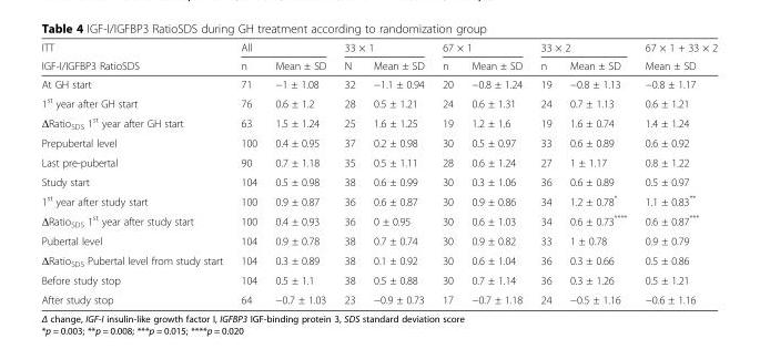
<table><thead><tr><td rowspan="2">ITT IGF-I/IGFBP3 RatioSDS</td><td colspan="2">All</td><td colspan="2">33 × 1</td><td colspan="2">67 × 1</td><td colspan="2">33 × 2</td><td rowspan="2">67 × 1 + 33 × 2 Mean ± SD</td></tr><tr><td>n</td><td>Mean ± SD</td><td>N</td><td>Mean ± SD</td><td>n</td><td>Mean ± SD</td><td>n</td><td>Mean ± SD</td></tr></thead><tbody><tr><td>At GH start</td><td>71</td><td>−1 ± 1.08</td><td>32</td><td>−1.1 ± 0.94</td><td>20</td><td>−0.8 ± 1.24</td><td>19</td><td>−0.8 ± 1.13</td><td>−0.8 ± 1.17</td></tr><tr><td>1<sup>st</sup> year after GH start</td><td>76</td><td>0.6 ± 1.2</td><td>28</td><td>0.5 ± 1.21</td><td>24</td><td>0.6 ± 1.31</td><td>24</td><td>0.7 ± 1.13</td><td>0.6 ± 1.21</td></tr><tr><td>ΔRatio<sub>SDS</sub> 1<sup>st</sup> year after GH start</td><td>63</td><td>1.5 ± 1.24</td><td>25</td><td>1.6 ± 1.25</td><td>19</td><td>1.2 ± 1.6</td><td>19</td><td>1.6 ± 0.74</td><td>1.4 ± 1.24</td></tr><tr><td>Prepubertal level</td><td>100</td><td>0.4 ± 0.95</td><td>37</td><td>0.2 ± 0.98</td><td>30</td><td>0.5 ± 0.97</td><td>33</td><td>0.6 ± 0.89</td><td>0.6 ± 0.92</td></tr><tr><td>Last pre-pubertal</td><td>90</td><td>0.7 ± 1.18</td><td>35</td><td>0.5 ± 1.11</td><td>28</td><td>0.6 ± 1.24</td><td>27</td><td>1 ± 1.17</td><td>0.8 ± 1.22</td></tr><tr><td>Study start</td><td>104</td><td>0.5 ± 0.98</td><td>38</td><td>0.6 ± 0.99</td><td>30</td><td>0.3 ± 1.06</td><td>36</td><td>0.6 ± 0.89</td><td>0.5 ± 0.97</td></tr><tr><td>1<sup>st</sup> year after study start</td><td>100</td><td>0.9 ± 0.87</td><td>36</td><td>0.6 ± 0.87</td><td>30</td><td>0.9 ± 0.86</td><td>34</td><td>1.2 ± 0.78*</td><td>1.1 ± 0.83**</td></tr><tr><td>ΔRatio<sub>SDS</sub> 1<sup>st</sup> year after study start</td><td>100</td><td>0.4 ± 0.93</td><td>36</td><td>0 ± 0.95</td><td>30</td><td>0.6 ± 1.03</td><td>34</td><td>0.6 ± 0.73****</td><td>0.6 ± 0.87***</td></tr><tr><td>Pubertal level</td><td>104</td><td>0.9 ± 0.78</td><td>38</td><td>0.7 ± 0.74</td><td>30</td><td>0.9 ± 0.82</td><td>33</td><td>1 ± 0.78</td><td>0.9 ± 0.79</td></tr><tr><td>ΔRatio<sub>SDS</sub> Pubertal level from study start</td><td>104</td><td>0.3 ± 0.89</td><td>38</td><td>0.1 ± 0.92</td><td>30</td><td>0.6 ± 1.04</td><td>36</td><td>0.3 ± 0.66</td><td>0.5 ± 0.86</td></tr><tr><td>Before study stop</td><td>104</td><td>0.5 ± 1.1</td><td>38</td><td>0.5 ± 0.88</td><td>30</td><td>0.7 ± 1.14</td><td>36</td><td>0.3 ± 1.26</td><td>0.5 ± 1.21</td></tr><tr><td>After study stop</td><td>64</td><td>−0.7 ± 1.03</td><td>23</td><td>−0.9 ± 0.73</td><td>17</td><td>−0.7 ± 1.18</td><td>24</td><td>−0.5 ± 1.16</td><td>−0.6 ± 1.16</td></tr></tbody></table>